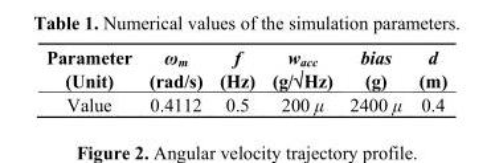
<table><thead><tr><td>Parameter (Unit)</td><td>ω<sub>m</sub> (rad/s)</td><td>f (Hz)</td><td>wacc (g/√Hz)</td><td>bias (g)</td><td><sub>d (m)</sub></td></tr></thead><tbody><tr><td>Value</td><td>0.4112</td><td>0.5</td><td>200 μ</td><td>2400 μ</td><td>0.4</td></tr></tbody></table>